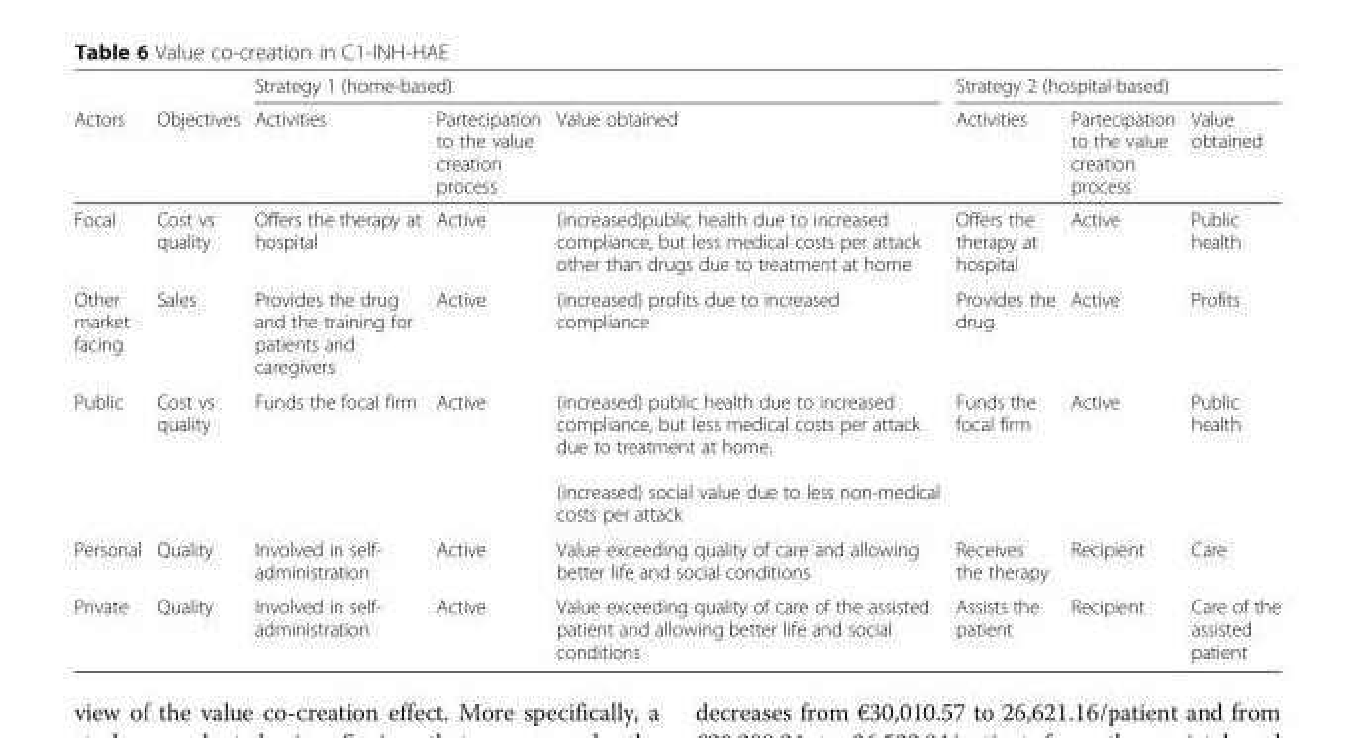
<table><thead><tr><td rowspan="2">Actors</td><td rowspan="2">Objectives</td><td colspan="3">Strategy 1 (home-based)</td><td colspan="3">Strategy 2 (hospital-based)</td></tr><tr><td>Activities</td><td>Partecipation to the value creation process</td><td>Value obtained</td><td>Activities</td><td>Partecipation to the value creation process</td><td>Value obtained</td></tr></thead><tbody><tr><td>Focal</td><td>Cost vs quality</td><td>Offers the therapy at hospital</td><td>Active</td><td>(increased)public health due to increased compliance, but less medical costs per attack other than drugs due to treatment at home</td><td>Offers the therapy at hospital</td><td>Active</td><td>Public health</td></tr><tr><td>Other market facing</td><td>Sales</td><td>Provides the drug and the training for patients and caregivers</td><td>Active</td><td>(increased) profits due to increased compliance</td><td>Provides the drug</td><td>Active</td><td>Profits</td></tr><tr><td>Public</td><td>Cost vs quality</td><td>Funds the focal firm</td><td>Active</td><td>(increased) public health due to increased compliance, but less medical costs per attack due to treatment at home. (increased) social value due to less non-medical costs per attack</td><td>Funds the focal firm</td><td>Active</td><td>Public health</td></tr><tr><td>Personal</td><td>Quality</td><td>Involved in self- administration</td><td>Active</td><td>Value exceeding quality of care and allowing better life and social conditions</td><td>Receives the therapy</td><td>Recipient</td><td>Care</td></tr><tr><td>Private</td><td>Quality</td><td>Involved in self- administration</td><td>Active</td><td>Value exceeding quality of care of the assisted patient and allowing better life and social conditions</td><td>Assists the patient</td><td>Recipient</td><td>Care of the assisted patient</td></tr></tbody></table>